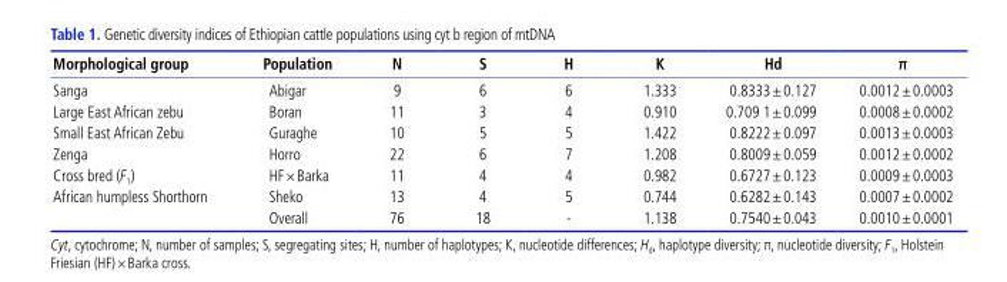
<table><thead><tr><td>Morphological group</td><td>Population</td><td>N</td><td>S</td><td>H</td><td>K</td><td>Hd</td><td>π</td></tr></thead><tbody><tr><td>Sanga</td><td>Abigar</td><td>9</td><td>6</td><td>6</td><td>1.333</td><td>0.8333±0.127</td><td>0.0012±0.0003</td></tr><tr><td>Large East African zebu</td><td>Boran</td><td>11</td><td>3</td><td>4</td><td>0.910</td><td>0.709 1±0.099</td><td>0.0008±0.0002</td></tr><tr><td>Small East African Zebu</td><td>Guraghe</td><td>10</td><td>5</td><td>5</td><td>1.422</td><td>0.8222±0.097</td><td>0.0013±0.0003</td></tr><tr><td>Zenga</td><td>Horro</td><td>22</td><td>6</td><td>7</td><td>1.208</td><td>0.8009±0.059</td><td>0.0012±0.0002</td></tr><tr><td>Cross bred (F<sub>1</sub>)</td><td>HF×Barka</td><td>11</td><td>4</td><td>4</td><td>0.982</td><td>0.6727±0.123</td><td>0.0009±0.0003</td></tr><tr><td rowspan="2">African humpless Shorthorn</td><td>Sheko</td><td>13</td><td>4</td><td>5</td><td>0.744</td><td>0.6282±0.143</td><td>0.0007±0.0002</td></tr><tr><td>Overall</td><td>76</td><td>18</td><td>-</td><td>1.138</td><td>0.7540±0.043</td><td>0.0010±0.0001</td></tr></tbody></table>